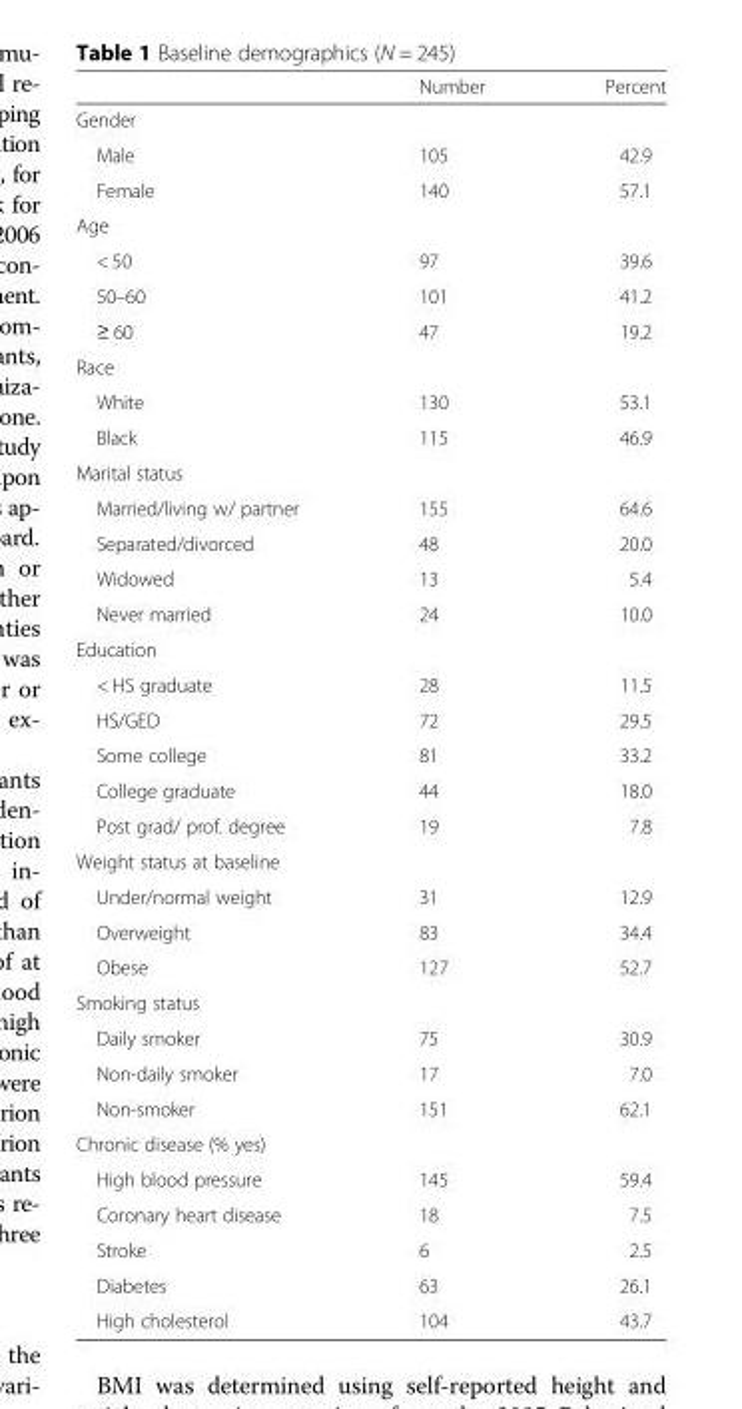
<table><thead><tr><td></td><td>Number</td><td>Percent</td></tr></thead><tbody><tr><td colspan="3">Gender</td></tr><tr><td>Male</td><td>105</td><td>42.9</td></tr><tr><td>Female</td><td>140</td><td>57.1</td></tr><tr><td colspan="3">Age</td></tr><tr><td>&lt; 50</td><td>97</td><td>39.6</td></tr><tr><td>50–60</td><td>101</td><td>41.2</td></tr><tr><td>≥ 60</td><td>47</td><td>19.2</td></tr><tr><td colspan="3">Race</td></tr><tr><td>White</td><td>130</td><td>53.1</td></tr><tr><td>Black</td><td>115</td><td>46.9</td></tr><tr><td colspan="3">Marital status</td></tr><tr><td>Married/living w/ partner</td><td>155</td><td>64.6</td></tr><tr><td>Separated/divorced</td><td>48</td><td>20.0</td></tr><tr><td>Widowed</td><td>13</td><td>5.4</td></tr><tr><td>Never married</td><td>24</td><td>10.0</td></tr><tr><td colspan="3">Education</td></tr><tr><td>&lt; HS graduate</td><td>28</td><td>11.5</td></tr><tr><td>HS/GED</td><td>72</td><td>29.5</td></tr><tr><td>Some college</td><td>81</td><td>33.2</td></tr><tr><td>College graduate</td><td>44</td><td>18.0</td></tr><tr><td>Post grad/ prof. degree</td><td>19</td><td>7.8</td></tr><tr><td colspan="3">Weight status at baseline</td></tr><tr><td>Under/normal weight</td><td>31</td><td>12.9</td></tr><tr><td>Overweight</td><td>83</td><td>34.4</td></tr><tr><td>Obese</td><td>127</td><td>52.7</td></tr><tr><td colspan="3">Smoking status</td></tr><tr><td>Daily smoker</td><td>75</td><td>30.9</td></tr><tr><td>Non-daily smoker</td><td>17</td><td>7.0</td></tr><tr><td>Non-smoker</td><td>151</td><td>62.1</td></tr><tr><td colspan="3">Chronic disease (% yes)</td></tr><tr><td>High blood pressure</td><td>145</td><td>59.4</td></tr><tr><td>Coronary heart disease</td><td>18</td><td>7.5</td></tr><tr><td>Stroke</td><td>6</td><td>2.5</td></tr><tr><td>Diabetes</td><td>63</td><td>26.1</td></tr><tr><td>High cholesterol</td><td>104</td><td>43.7</td></tr></tbody></table>